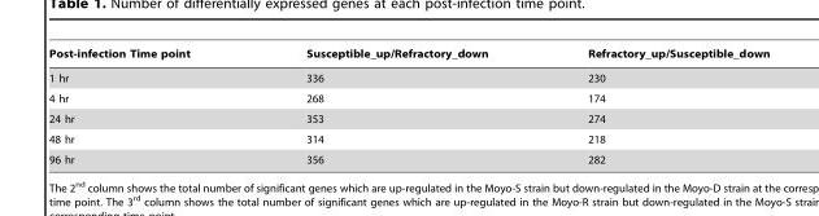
<table><thead><tr><td>Post-infection Time point</td><td>Susceptible_up/Refractory_down</td><td>Refractory_up/Susceptible_down</td></tr></thead><tbody><tr><td>1 hr</td><td>336</td><td>230</td></tr><tr><td>4 hr</td><td>268</td><td>174</td></tr><tr><td>24 hr</td><td>353</td><td>274</td></tr><tr><td>48 hr</td><td>314</td><td>218</td></tr><tr><td>96 hr</td><td>356</td><td>282</td></tr></tbody></table>